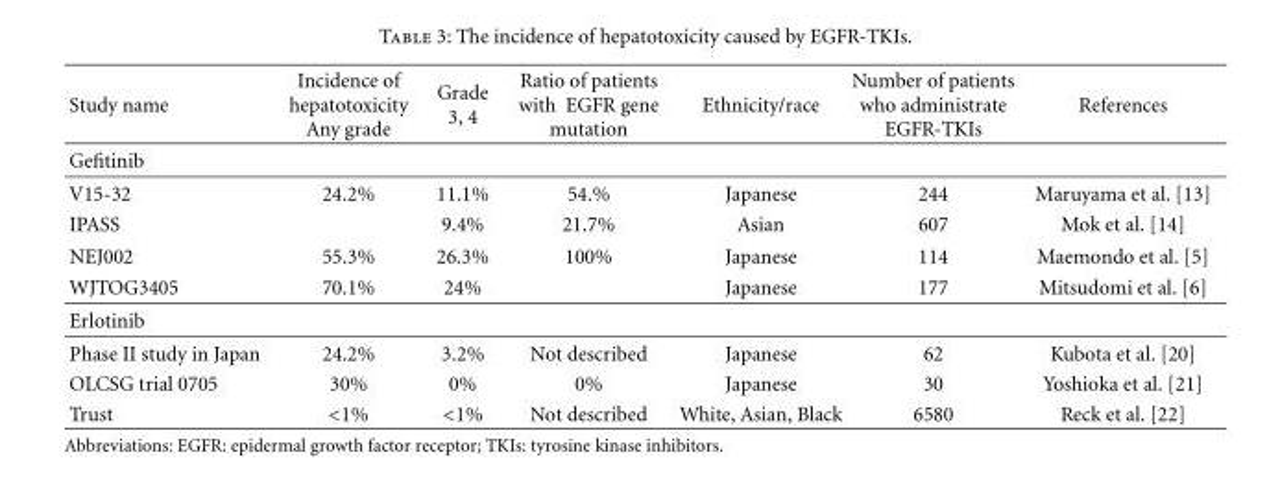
<table><thead><tr><td>Study name</td><td>Incidence of hepatotoxicity Any grade</td><td>Grade 3, 4</td><td>Ratio of patients with EGFR gene mutation</td><td>Ethnicity/race</td><td>Number of patients who administrate EGFR-TKIs</td><td>References</td></tr></thead><tbody><tr><td colspan="7">Gefitinib</td></tr><tr><td>V15-32</td><td>24.2%</td><td>11.1%</td><td>54.%</td><td>Japanese</td><td>244</td><td>Maruyama et al. [13]</td></tr><tr><td>IPASS</td><td></td><td>9.4%</td><td>21.7%</td><td>Asian</td><td>607</td><td>Mok et al. [14]</td></tr><tr><td>NEJ002</td><td>55.3%</td><td>26.3%</td><td>100%</td><td>Japanese</td><td>114</td><td>Maemondo et al. [5]</td></tr><tr><td>WJTOG3405</td><td>70.1%</td><td>24%</td><td></td><td>Japanese</td><td>177</td><td>Mitsudomi et al. [6]</td></tr><tr><td colspan="7">Erlotinib</td></tr><tr><td>Phase II study in Japan</td><td>24.2%</td><td>3.2%</td><td>Not described</td><td>Japanese</td><td>62</td><td>Kubota et al. [20]</td></tr><tr><td>OLCSG trial 0705</td><td>30%</td><td>0%</td><td>0%</td><td>Japanese</td><td>30</td><td>Yoshioka et al. [21]</td></tr><tr><td>Trust</td><td>&lt;1%</td><td>&lt;1%</td><td>Not described</td><td>White, Asian, Black</td><td>6580</td><td>Reck et al. [22]</td></tr></tbody></table>